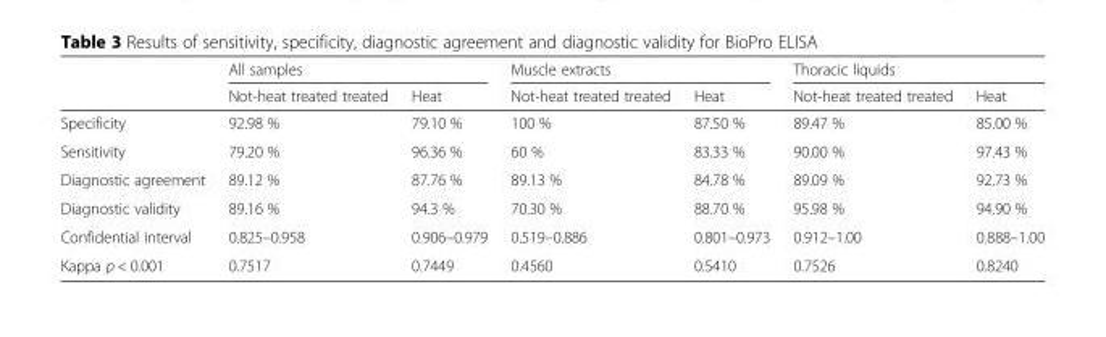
<table><thead><tr><td rowspan="2"></td><td colspan="2">All samples</td><td colspan="2">Muscle extracts</td><td colspan="2">Thoracic liquids</td></tr><tr><td>Not-heat treated treated</td><td>Heat</td><td>Not-heat treated treated</td><td>Heat</td><td>Not-heat treated treated</td><td>Heat</td></tr></thead><tbody><tr><td>Specificity</td><td>92.98 %</td><td>79.10 %</td><td>100 %</td><td>87.50 %</td><td>89.47 %</td><td>85.00 %</td></tr><tr><td>Sensitivity</td><td>79.20 %</td><td>96.36 %</td><td>60 %</td><td>83.33 %</td><td>90.00 %</td><td>97.43 %</td></tr><tr><td>Diagnostic agreement</td><td>89.12 %</td><td>87.76 %</td><td>89.13 %</td><td>84.78 %</td><td>89.09 %</td><td>92.73 %</td></tr><tr><td>Diagnostic validity</td><td>89.16 %</td><td>94.3 %</td><td>70.30 %</td><td>88.70 %</td><td>95.98 %</td><td>94.90 %</td></tr><tr><td>Confidential interval</td><td>0.825–0.958</td><td>0.906–0.979</td><td>0.519–0.886</td><td>0.801–0.973</td><td>0.912–1.00</td><td>0.888–1.00</td></tr><tr><td>Kappa p &lt; 0.001</td><td>0.7517</td><td>0.7449</td><td>0.4560</td><td>0.5410</td><td>0.7526</td><td>0.8240</td></tr></tbody></table>